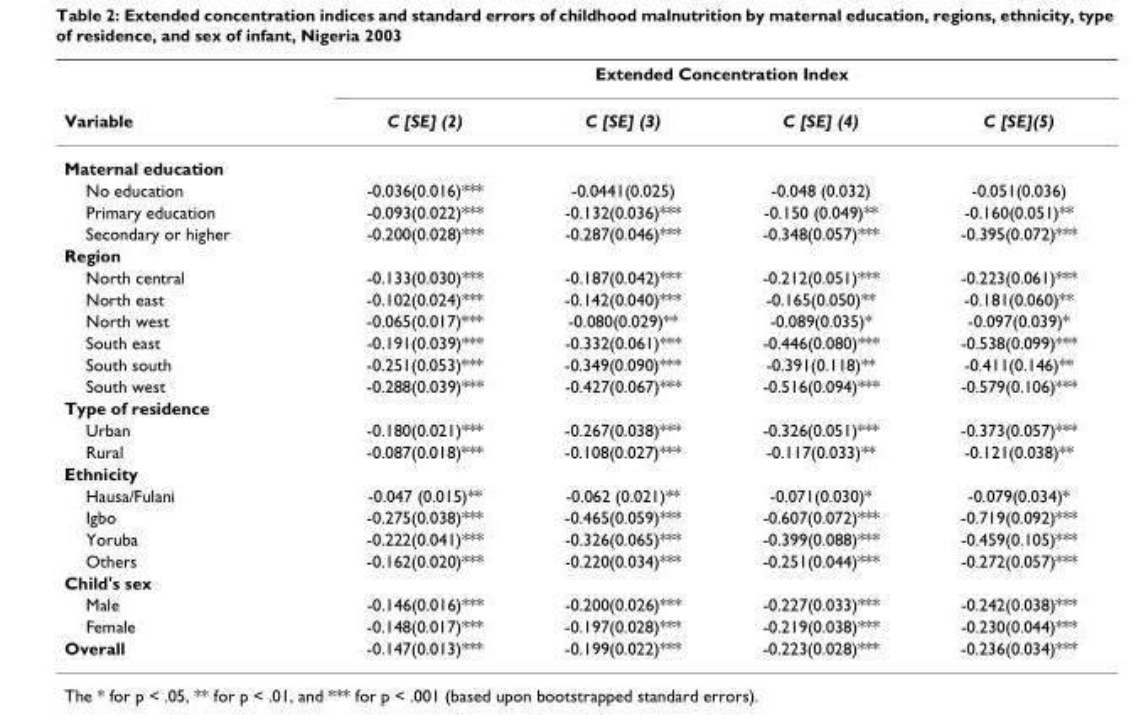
<table><thead><tr><td rowspan="2">Variable</td><td colspan="4">Extended Concentration Index</td></tr><tr><td>C [SE] (2)</td><td>C [SE] (3)</td><td>C [SE] (4)</td><td>C [SE](5)</td></tr></thead><tbody><tr><td colspan="5">Maternal education</td></tr><tr><td>No education</td><td>-0.036(0.016)***</td><td>-0.0441(0.025)</td><td>-0.048 (0.032)</td><td>-0.051(0.036)</td></tr><tr><td>Primary education</td><td>-0.093(0.022)***</td><td>-0.132(0.036)***</td><td>-0.150 (0.049)**</td><td>-0.160(0.051)**</td></tr><tr><td>Secondary or higher</td><td>-0.200(0.028)***</td><td>-0.287(0.046)***</td><td>-0.348(0.057)***</td><td>-0.395(0.072)***</td></tr><tr><td colspan="5">Region</td></tr><tr><td>North central</td><td>-0.133(0.030)***</td><td>-0.187(0.042)***</td><td>-0.212(0.051)***</td><td>-0.223(0.061)***</td></tr><tr><td>North east</td><td>-0.102(0.024)***</td><td>-0.142(0.040)***</td><td>-0.165(0.050)**</td><td>-0.181(0.060)**</td></tr><tr><td>North west</td><td>-0.065(0.017)***</td><td>-0.080(0.029)**</td><td>-0.089(0.035)*</td><td>-0.097(0.039)*</td></tr><tr><td>South east</td><td>-0.191(0.039)***</td><td>-0.332(0.061)***</td><td>-0.446(0.080)***</td><td>-0.538(0.099)***</td></tr><tr><td>South south</td><td>-0.251(0.053)***</td><td>-0.349(0.090)***</td><td>-0.391(0.118)**</td><td>-0.411(0.146)**</td></tr><tr><td>South west</td><td>-0.288(0.039)***</td><td>-0.427(0.067)***</td><td>-0.516(0.094)***</td><td>-0.579(0.106)***</td></tr><tr><td colspan="5">Type of residence</td></tr><tr><td>Urban</td><td>-0.180(0.021)***</td><td>-0.267(0.038)***</td><td>-0.326(0.051)***</td><td>-0.373(0.057)***</td></tr><tr><td>Rural</td><td>-0.087(0.018)***</td><td>-0.108(0.027)***</td><td>-0.117(0.033)**</td><td>-0.121(0.038)**</td></tr><tr><td colspan="5">Ethnicity</td></tr><tr><td>Hausa/Fulani</td><td>-0.047 (0.015)**</td><td>-0.062 (0.021)**</td><td>-0.071(0.030)*</td><td>-0.079(0.034)*</td></tr><tr><td>Igbo</td><td>-0.275(0.038)***</td><td>-0.465(0.059)***</td><td>-0.607(0.072)***</td><td>-0.719(0.092)***</td></tr><tr><td>Yoruba</td><td>-0.222(0.041)***</td><td>-0.326(0.065)***</td><td>-0.399(0.088)***</td><td>-0.459(0.105)***</td></tr><tr><td>Others</td><td>-0.162(0.020)***</td><td>-0.220(0.034)***</td><td>-0.251(0.044)***</td><td>-0.272(0.057)***</td></tr><tr><td colspan="5">Child&#x27;s sex</td></tr><tr><td>Male</td><td>-0.146(0.016)***</td><td>-0.200(0.026)***</td><td>-0.227(0.033)***</td><td>-0.242(0.038)***</td></tr><tr><td>Female</td><td>-0.148(0.017)***</td><td>-0.197(0.028)***</td><td>-0.219(0.038)***</td><td>-0.230(0.044)***</td></tr><tr><td>Overall</td><td>-0.147(0.013)***</td><td>-0.199(0.022)***</td><td>-0.223(0.028)***</td><td>-0.236(0.034)***</td></tr></tbody></table>